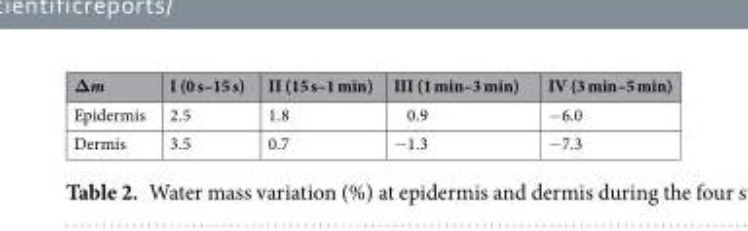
<table><thead><tr><td>Δm</td><td>I (0 s–15 s)</td><td>II (15 s–1 min)</td><td>III (1 min–3 min)</td><td>IV (3 min–5 min)</td></tr></thead><tbody><tr><td>Epidermis</td><td>2.5</td><td>1.8</td><td>0.9</td><td>−6.0</td></tr><tr><td>Dermis</td><td>3.5</td><td>0.7</td><td>−1.3</td><td>−7.3</td></tr></tbody></table>